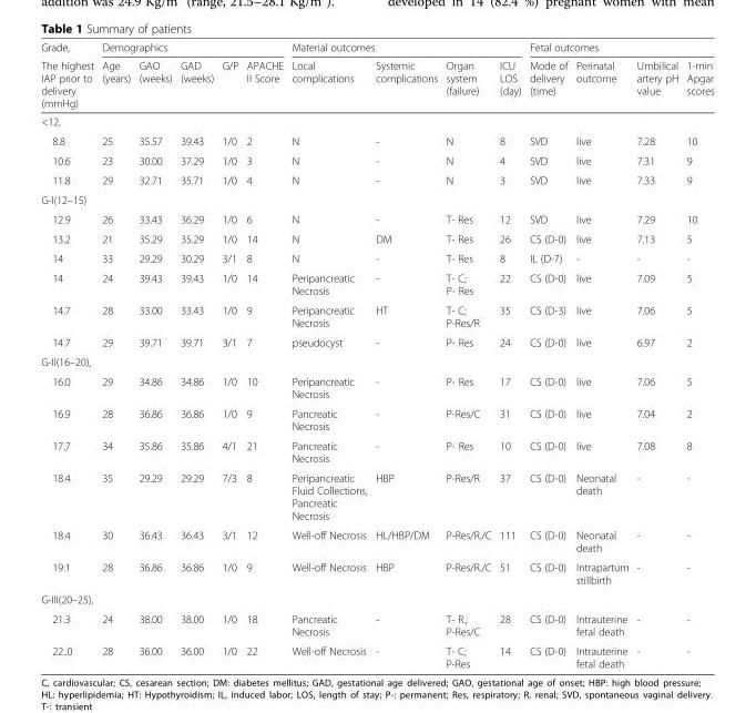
<table><thead><tr><td rowspan="2">Grade, The highest IAP prior to delivery (mmHg)</td><td colspan="5">Demographics</td><td colspan="4">Material outcomes</td><td colspan="4">Fetal outcomes</td></tr><tr><td>Age (years)</td><td>GAO (weeks)</td><td>GAD (weeks)</td><td>G/P</td><td>APACHE II Score</td><td>Local complications</td><td>Systemic complications</td><td>Organ system (failure)</td><td>ICU LOS (day)</td><td>Mode of delivery (time)</td><td>Perinatal outcome</td><td>Umbilical artery pH value</td><td>1-min Apgar scores</td></tr></thead><tbody><tr><td colspan="14">&lt;12,</td></tr><tr><td>8.8</td><td>25</td><td>35.57</td><td>39.43</td><td>1/0</td><td>2</td><td>N</td><td>-</td><td>N</td><td>8</td><td>SVD</td><td>live</td><td>7.28</td><td>10</td></tr><tr><td>10.6</td><td>23</td><td>30.00</td><td>37.29</td><td>1/0</td><td>3</td><td>N</td><td>-</td><td>N</td><td>4</td><td>SVD</td><td>live</td><td>7.31</td><td>9</td></tr><tr><td>11.8</td><td>29</td><td>32.71</td><td>35.71</td><td>1/0</td><td>4</td><td>N</td><td>-</td><td>N</td><td>3</td><td>SVD</td><td>live</td><td>7.33</td><td>9</td></tr><tr><td colspan="14">G-I(12–15)</td></tr><tr><td>12.9</td><td>26</td><td>33.43</td><td>36.29</td><td>1/0</td><td>6</td><td>N</td><td>-</td><td>T- Res</td><td>12</td><td>SVD</td><td>live</td><td>7.29</td><td>10</td></tr><tr><td>13.2</td><td>21</td><td>35.29</td><td>35.29</td><td>1/0</td><td>14</td><td>N</td><td>DM</td><td>T- Res</td><td>26</td><td>CS (D-0)</td><td>live</td><td>7.13</td><td>5</td></tr><tr><td>14</td><td>33</td><td>29.29</td><td>30.29</td><td>3/1</td><td>8</td><td>N</td><td>-</td><td>T- Res</td><td>8</td><td>IL (D-7)</td><td>-</td><td>-</td><td>-</td></tr><tr><td>14</td><td>24</td><td>39.43</td><td>39.43</td><td>1/0</td><td>14</td><td>Peripancreatic Necrosis</td><td>-</td><td>T- C; P- Res</td><td>22</td><td>CS (D-0)</td><td>live</td><td>7.09</td><td>5</td></tr><tr><td>14.7</td><td>28</td><td>33.00</td><td>33.43</td><td>1/0</td><td>9</td><td>Peripancreatic Necrosis</td><td>HT</td><td>T- C; P-Res/R</td><td>35</td><td>CS (D-3)</td><td>live</td><td>7.06</td><td>5</td></tr><tr><td>14.7</td><td>29</td><td>39.71</td><td>39.71</td><td>3/1</td><td>7</td><td>pseudocyst</td><td>-</td><td>P- Res</td><td>24</td><td>CS (D-0)</td><td>live</td><td>6.97</td><td>2</td></tr><tr><td colspan="14">G-II(16–20),</td></tr><tr><td>16.0</td><td>29</td><td>34.86</td><td>34.86</td><td>1/0</td><td>10</td><td>Peripancreatic Necrosis</td><td>-</td><td>P- Res</td><td>17</td><td>CS (D-0)</td><td>live</td><td>7.06</td><td>5</td></tr><tr><td>16.9</td><td>28</td><td>36.86</td><td>36.86</td><td>1/0</td><td>9</td><td>Pancreatic Necrosis</td><td>-</td><td>P-Res/C</td><td>31</td><td>CS (D-0)</td><td>live</td><td>7.04</td><td>2</td></tr><tr><td>17.7</td><td>34</td><td>35.86</td><td>35.86</td><td>4/1</td><td>21</td><td>Pancreatic Necrosis</td><td>-</td><td>P- Res</td><td>10</td><td>CS (D-0)</td><td>live</td><td>7.08</td><td>8</td></tr><tr><td>18.4</td><td>35</td><td>29.29</td><td>29.29</td><td>7/3</td><td>8</td><td>Peripancreatic Fluid Collections, Pancreatic Necrosis</td><td>HBP</td><td>P-Res/R</td><td>37</td><td>CS (D-0)</td><td>Neonatal death</td><td>-</td><td>-</td></tr><tr><td>18.4</td><td>30</td><td>36.43</td><td>36.43</td><td>3/1</td><td>12</td><td>Well-off Necrosis</td><td>HL/HBP/DM</td><td>P-Res/R./C</td><td>111</td><td>CS (D-0)</td><td>Neonatal death</td><td>-</td><td>-</td></tr><tr><td>19.1</td><td>28</td><td>36.86</td><td>36.86</td><td>1/0</td><td>9</td><td>Well-off Necrosis</td><td>HBP</td><td>P-Res/R./C</td><td>51</td><td>CS (D-0)</td><td>Intrapartum stillbirth</td><td>-</td><td>-</td></tr><tr><td colspan="14">G-III(20–25),</td></tr><tr><td>21.3</td><td>24</td><td>38.00</td><td>38.00</td><td>1/0</td><td>18</td><td>Pancreatic Necrosis</td><td>-</td><td>T- R.; P-Res/C</td><td>28</td><td>CS (D-0)</td><td>Intrauterine fetal death</td><td>-</td><td>-</td></tr><tr><td>22..0</td><td>28</td><td>36.00</td><td>36.00</td><td>1/0</td><td>22</td><td>Well-off Necrosis</td><td>-</td><td>T- C; P-Res</td><td>14</td><td>CS (D-0)</td><td>Intrauterine fetal death</td><td>-</td><td>-</td></tr></tbody></table>